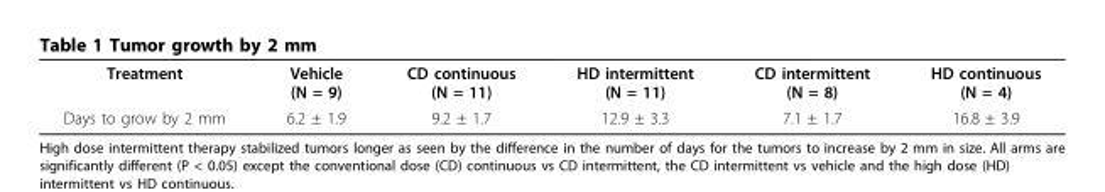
<table><tbody><tr><td>Treatment</td><td>Vehicle (N = 9)</td><td>CD continuous (N = 11)</td><td>HD intermittent (N = 11)</td><td>CD intermittent (N = 8)</td><td>HD continuous (N = 4)</td></tr><tr><td>Days to grow by 2 mm</td><td>6.2 ± 1.9</td><td>9.2 ± 1.7</td><td>12.9 ± 3.3</td><td>7.1 ± 1.7</td><td>16.8 ± 3.9</td></tr></tbody></table>